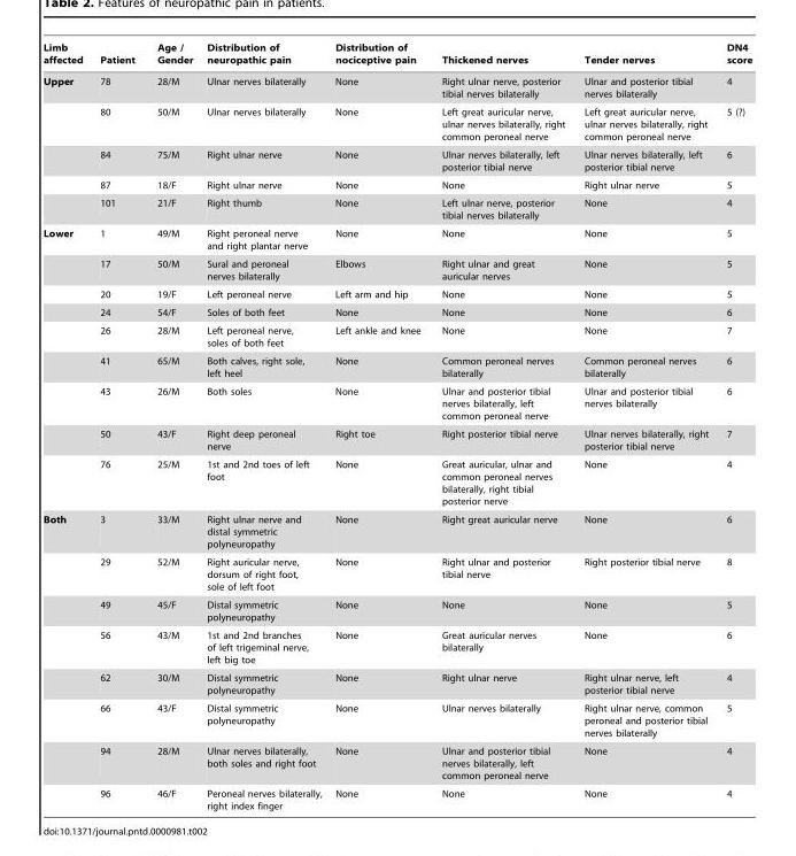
<table><thead><tr><td>Limb affected</td><td>Patient</td><td>Age / Gender</td><td>Distribution of neuropathic pain</td><td>Distribution of nociceptive pain</td><td>Thickened nerves</td><td>Tender nerves</td><td>DN4 score</td></tr></thead><tbody><tr><td rowspan="5">Upper</td><td>78</td><td>28/M</td><td>Ulnar nerves bilaterally</td><td>None</td><td>Right ulnar nerve, posterior tibial nerves bilaterally</td><td>Ulnar and posterior tibial nerves bilaterally</td><td>4</td></tr><tr><td>80</td><td>50/M</td><td>Ulnar nerves bilaterally</td><td>None</td><td>Left great auricular nerve, ulnar nerves bilaterally, right common peroneal nerve</td><td>Left great auricular nerve, ulnar nerves bilaterally, right common peroneal nerve</td><td>5 (?)</td></tr><tr><td>84</td><td>75/M</td><td>Right ulnar nerve</td><td>None</td><td>Ulnar nerves bilaterally, left posterior tibial nerve</td><td>Ulnar nerves bilaterally, left posterior tibial nerve</td><td>6</td></tr><tr><td>87</td><td>18/F</td><td>Right ulnar nerve</td><td>None</td><td>None</td><td>Right ulnar nerve</td><td>5</td></tr><tr><td>101</td><td>21/F</td><td>Right thumb</td><td>None</td><td>Left ulnar nerve, posterior tibial nerves bilaterally</td><td>None</td><td>4</td></tr><tr><td rowspan="9">Lower</td><td>1</td><td>49/M</td><td>Right peroneal nerve and right plantar nerve</td><td>None</td><td>None</td><td>None</td><td>5</td></tr><tr><td>17</td><td>50/M</td><td>Sural and peroneal nerves bilaterally</td><td>Elbows</td><td>Right ulnar and great auricular nerves</td><td>None</td><td>5</td></tr><tr><td>20</td><td>19/F</td><td>Left peroneal nerve</td><td>Left arm and hip</td><td>None</td><td>None</td><td>5</td></tr><tr><td>24</td><td>54/F</td><td>Soles of both feet</td><td>None</td><td>None</td><td>None</td><td>6</td></tr><tr><td>26</td><td>28/M</td><td>Left peroneal nerve, soles of both feet</td><td>Left ankle and knee</td><td>None</td><td>None</td><td>7</td></tr><tr><td>41</td><td>65/M</td><td>Both calves, right sole, left heel</td><td>None</td><td>Common peroneal nerves bilaterally</td><td>Common peroneal nerves bilaterally</td><td>6</td></tr><tr><td>43</td><td>26/M</td><td>Both soles</td><td>None</td><td>Ulnar and posterior tibial nerves bilaterally, left common peroneal nerve</td><td>Ulnar and posterior tibial nerves bilaterally</td><td>6</td></tr><tr><td>50</td><td>43/F</td><td>Right deep peroneal nerve</td><td>Right toe</td><td>Right posterior tibial nerve</td><td>Ulnar nerves bilaterally, right posterior tibial nerve</td><td>7</td></tr><tr><td>76</td><td>25/M</td><td>1st and 2nd toes of left foot</td><td>None</td><td>Great auricular, ulnar and common peroneal nerves bilaterally, right tibial posterior nerve</td><td>None</td><td>4</td></tr><tr><td rowspan="8">Both</td><td>3</td><td>33/M</td><td>Right ulnar nerve and distal symmetric polyneuropathy</td><td>None</td><td>Right great auricular nerve</td><td>None</td><td>6</td></tr><tr><td>29</td><td>52/M</td><td>Right auricular nerve, dorsum of right foot, sole of left foot</td><td>None</td><td>Right ulnar and posterior tibial nerve</td><td>Right posterior tibial nerve</td><td>8</td></tr><tr><td>49</td><td>45/F</td><td>Distal symmetric polyneuropathy</td><td>None</td><td>None</td><td>None</td><td>5</td></tr><tr><td>56</td><td>43/M</td><td>1st and 2nd branches of left trigeminal nerve, left big toe</td><td>None</td><td>Great auricular nerves bilaterally</td><td>None</td><td>6</td></tr><tr><td>62</td><td>30/M</td><td>Distal symmetric polyneuropathy</td><td>None</td><td>Right ulnar nerve</td><td>Right ulnar nerve, left posterior tibial nerve</td><td>4</td></tr><tr><td>66</td><td>43/F</td><td>Distal symmetric polyneuropathy</td><td>None</td><td>Ulnar nerves bilaterally</td><td>Right ulnar nerve, common peroneal and posterior tibial nerves bilaterally</td><td>5</td></tr><tr><td>94</td><td>28/M</td><td>Ulnar nerves bilaterally, both soles and right foot</td><td>None</td><td>Ulnar and posterior tibial nerves bilaterally, left common peroneal nerve</td><td>None</td><td>4</td></tr><tr><td>96</td><td>46/F</td><td>Peroneal nerves bilaterally, right index finger</td><td>None</td><td>None</td><td>None</td><td>4</td></tr></tbody></table>